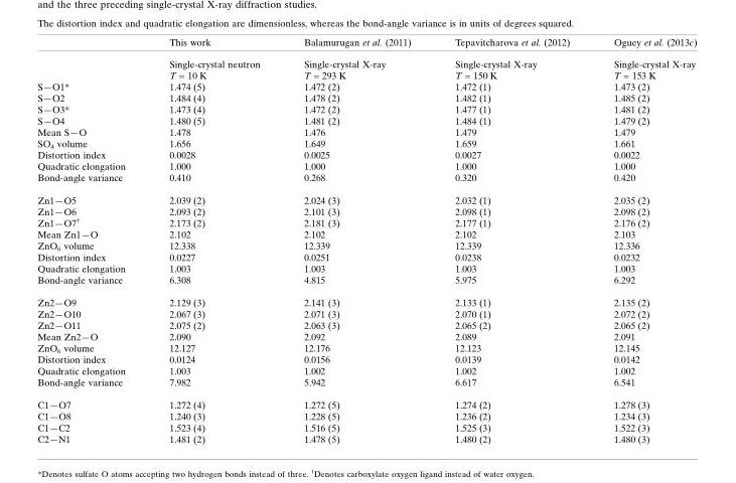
<table><thead><tr><td></td><td>This work</td><td>Balamurugan et al. (2011)</td><td>Tepavitcharova et al. (2012)</td><td>Oguey et al. (2013c)</td></tr></thead><tbody><tr><td></td><td>Single-crystal neutron</td><td>Single-crystal X-ray</td><td>Single-crystal X-ray</td><td>Single-crystal X-ray</td></tr><tr><td></td><td>T = 10 K</td><td>T = 293 K</td><td>T = 150 K</td><td>T = 153 K</td></tr><tr><td>S—O1*</td><td>1.474 (5)</td><td>1.472 (2)</td><td>1.472 (1)</td><td>1.473 (2)</td></tr><tr><td>S—O2</td><td>1.484 (4)</td><td>1.478 (2)</td><td>1.482 (1)</td><td>1.485 (2)</td></tr><tr><td>S—O3*</td><td>1.473 (4)</td><td>1.472 (2)</td><td>1.477 (1)</td><td>1.481 (2)</td></tr><tr><td>S—O4</td><td>1.480 (5)</td><td>1.481 (2)</td><td>1.484 (1)</td><td>1.479 (2)</td></tr><tr><td>Mean S—O</td><td>1.478</td><td>1.476</td><td>1.479</td><td>1.479</td></tr><tr><td>SO<sub>4</sub> volume</td><td>1.656</td><td>1.649</td><td>1.659</td><td>1.661</td></tr><tr><td>Distortion index</td><td>0.0028</td><td>0.0025</td><td>0.0027</td><td>0.0022</td></tr><tr><td>Quadratic elongation</td><td>1.000</td><td>1.000</td><td>1.000</td><td>1.000</td></tr><tr><td>Bond-angle variance</td><td>0.410</td><td>0.268</td><td>0.320</td><td>0.420</td></tr><tr><td>Zn1—O5</td><td>2.039 (2)</td><td>2.024 (3)</td><td>2.032 (1)</td><td>2.035 (2)</td></tr><tr><td>Zn1—O6</td><td>2.093 (2)</td><td>2.101 (3)</td><td>2.098 (1)</td><td>2.098 (2)</td></tr><tr><td>Zn1—O7<sup>†</sup></td><td>2.173 (2)</td><td>2.181 (3)</td><td>2.177 (1)</td><td>2.176 (2)</td></tr><tr><td>Mean Zn1—O</td><td>2.102</td><td>2.102</td><td>2.102</td><td>2.103</td></tr><tr><td>ZnO<sub>6</sub> volume</td><td>12.338</td><td>12.339</td><td>12.339</td><td>12.336</td></tr><tr><td>Distortion index</td><td>0.0227</td><td>0.0251</td><td>0.0238</td><td>0.0232</td></tr><tr><td>Quadratic elongation</td><td>1.003</td><td>1.003</td><td>1.003</td><td>1.003</td></tr><tr><td>Bond-angle variance</td><td>6.308</td><td>4.815</td><td>5.975</td><td>6.292</td></tr><tr><td>Zn2—O9</td><td>2.129 (3)</td><td>2.141 (3)</td><td>2.133 (1)</td><td>2.135 (2)</td></tr><tr><td>Zn2—O10</td><td>2.067 (3)</td><td>2.071 (3)</td><td>2.070 (1)</td><td>2.072 (2)</td></tr><tr><td>Zn2—O11</td><td>2.075 (2)</td><td>2.063 (3)</td><td>2.065 (2)</td><td>2.065 (2)</td></tr><tr><td>Mean Zn2—O</td><td>2.090</td><td>2.092</td><td>2.089</td><td>2.091</td></tr><tr><td>ZnO<sub>6</sub> volume</td><td>12.127</td><td>12.176</td><td>12.123</td><td>12.145</td></tr><tr><td>Distortion index</td><td>0.0124</td><td>0.0156</td><td>0.0139</td><td>0.0142</td></tr><tr><td>Quadratic elongation</td><td>1.003</td><td>1.002</td><td>1.002</td><td>1.002</td></tr><tr><td>Bond-angle variance</td><td>7.982</td><td>5.942</td><td>6.617</td><td>6.541</td></tr><tr><td>C1—O7</td><td>1.272 (4)</td><td>1.272 (5)</td><td>1.274 (2)</td><td>1.278 (3)</td></tr><tr><td>C1—O8</td><td>1.240 (3)</td><td>1.228 (5)</td><td>1.236 (2)</td><td>1.234 (3)</td></tr><tr><td>C1—C2</td><td>1.523 (4)</td><td>1.516 (5)</td><td>1.525 (3)</td><td>1.522 (3)</td></tr><tr><td>C2—N1</td><td>1.481 (2)</td><td>1.478 (5)</td><td>1.480 (2)</td><td>1.480 (3)</td></tr></tbody></table>